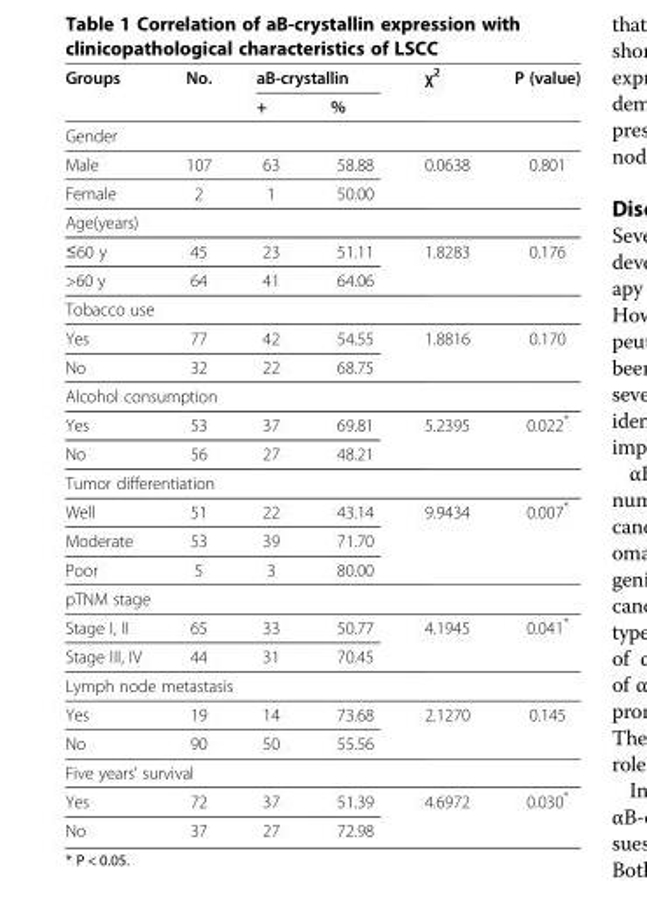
<table><thead><tr><td rowspan="2">Groups</td><td rowspan="2">No.</td><td colspan="2">aB-crystallin</td><td rowspan="2">χ<sup>2</sup></td><td rowspan="2">P (value)</td></tr><tr><td>+</td><td>%</td></tr></thead><tbody><tr><td colspan="6">Gender</td></tr><tr><td>Male</td><td>107</td><td>63</td><td>58.88</td><td rowspan="2">0.0638</td><td rowspan="2">0.801</td></tr><tr><td>Female</td><td>2</td><td>1</td><td>50.00</td></tr><tr><td colspan="6">Age(years)</td></tr><tr><td>≤60 y</td><td>45</td><td>23</td><td>51.11</td><td rowspan="2">1.8283</td><td rowspan="2">0.176</td></tr><tr><td>&gt;60 y</td><td>64</td><td>41</td><td>64.06</td></tr><tr><td colspan="6">Tobacco use</td></tr><tr><td>Yes</td><td>77</td><td>42</td><td>54.55</td><td rowspan="2">1.8816</td><td rowspan="2">0.170</td></tr><tr><td>No</td><td>32</td><td>22</td><td>68.75</td></tr><tr><td colspan="6">Alcohol consumption</td></tr><tr><td>Yes</td><td>53</td><td>37</td><td>69.81</td><td rowspan="2">5.2395</td><td rowspan="2">0.022*</td></tr><tr><td>No</td><td>56</td><td>27</td><td>48.21</td></tr><tr><td colspan="6">Tumor differentiation</td></tr><tr><td>Well</td><td>51</td><td>22</td><td>43.14</td><td rowspan="3">9.9434</td><td rowspan="3">0.007*</td></tr><tr><td>Moderate</td><td>53</td><td>39</td><td>71.70</td></tr><tr><td>Poor</td><td>5</td><td>3</td><td>80.00</td></tr><tr><td colspan="6">pTNM stage</td></tr><tr><td>Stage I, II</td><td>65</td><td>33</td><td>50.77</td><td rowspan="2">4.1945</td><td rowspan="2">0.041*</td></tr><tr><td>Stage III, IV</td><td>44</td><td>31</td><td>70.45</td></tr><tr><td colspan="6">Lymph node metastasis</td></tr><tr><td>Yes</td><td>19</td><td>14</td><td>73.68</td><td rowspan="2">2.1270</td><td rowspan="2">0.145</td></tr><tr><td>No</td><td>90</td><td>50</td><td>55.56</td></tr><tr><td colspan="6">Five years’ survival</td></tr><tr><td>Yes</td><td>72</td><td>37</td><td>51.39</td><td rowspan="2">4.6972</td><td rowspan="2">0.030*</td></tr><tr><td>No</td><td>37</td><td>27</td><td>72.98</td></tr></tbody></table>